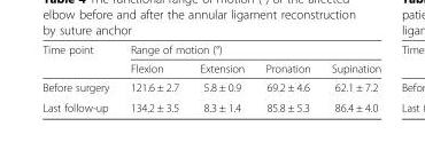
<table><thead><tr><td rowspan="2">Time point</td><td colspan="4">Range of motion (°)</td></tr><tr><td>Flexion</td><td>Extension</td><td>Pronation</td><td>Supination</td></tr></thead><tbody><tr><td>Before surgery</td><td>121.6 ± 2.7</td><td>5.8 ± 0.9</td><td>69.2 ± 4.6</td><td>62.1 ± 7.2</td></tr><tr><td>Last follow-up</td><td>134.2 ± 3.5</td><td>8.3 ± 1.4</td><td>85.8 ± 5.3</td><td>86.4 ± 4.0</td></tr></tbody></table>